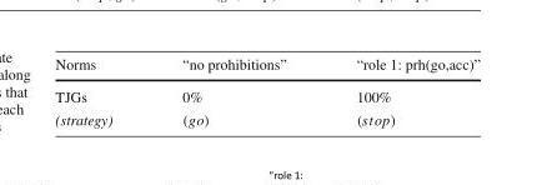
<table><thead><tr><td>Norms</td><td>“no prohibitions”</td><td>“role 1: prh(go,acc)”</td></tr></thead><tbody><tr><td>TJGs</td><td>0%</td><td>100%</td></tr><tr><td>(strategy)</td><td>(go)</td><td>(stop)</td></tr></tbody></table>